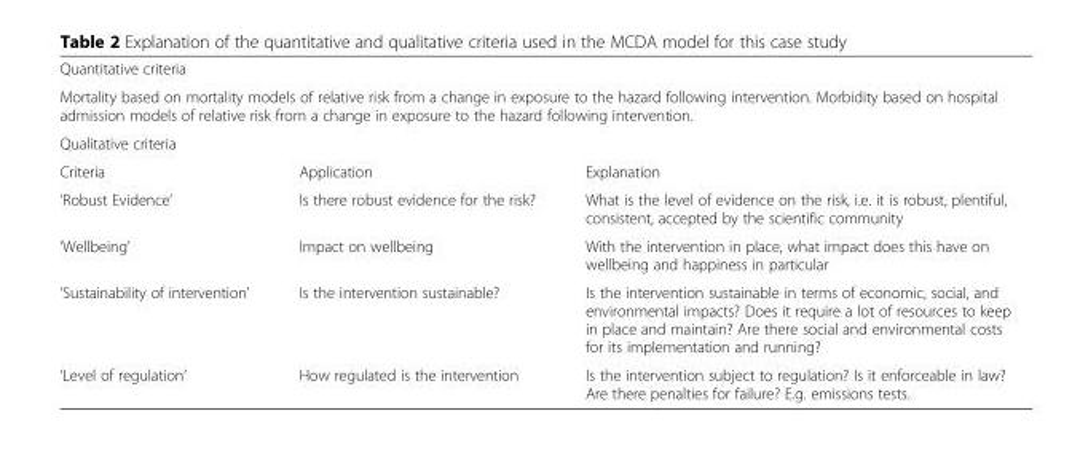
<table><tbody><tr><td colspan="3">Quantitative criteria</td></tr><tr><td colspan="3">Mortality based on mortality models of relative risk from a change in exposure to the hazard following intervention. Morbidity based on hospital admission models of relative risk from a change in exposure to the hazard following intervention.</td></tr><tr><td colspan="3">Qualitative criteria</td></tr><tr><td>Criteria</td><td>Application</td><td>Explanation</td></tr><tr><td>‘Robust Evidence’</td><td>Is there robust evidence for the risk?</td><td>What is the level of evidence on the risk, i.e. it is robust, plentiful, consistent, accepted by the scientific community</td></tr><tr><td>‘Wellbeing’</td><td>Impact on wellbeing</td><td>With the intervention in place, what impact does this have on wellbeing and happiness in particular</td></tr><tr><td>‘Sustainability of intervention’</td><td>Is the intervention sustainable?</td><td>Is the intervention sustainable in terms of economic, social, and environmental impacts? Does it require a lot of resources to keep in place and maintain? Are there social and environmental costs for its implementation and running?</td></tr><tr><td>‘Level of regulation’</td><td>How regulated is the intervention</td><td>Is the intervention subject to regulation? Is it enforceable in law? Are there penalties for failure? E.g. emissions tests.</td></tr></tbody></table>